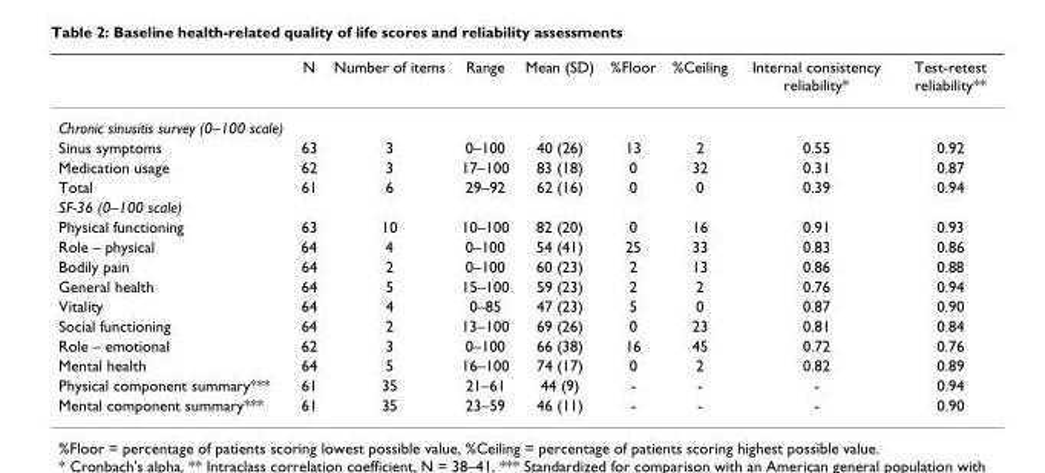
<table><thead><tr><td></td><td>N</td><td>Number of items</td><td>Range</td><td>Mean (SD)</td><td>%Floor</td><td>%Ceiling</td><td>Internal consistency reliability*</td><td>Test-retest reliability**</td></tr></thead><tbody><tr><td colspan="9">Chronic sinusitis survey (0–100 scale)</td></tr><tr><td>Sinus symptoms</td><td>63</td><td>3</td><td>0–100</td><td>40 (26)</td><td>13</td><td>2</td><td>0.55</td><td>0.92</td></tr><tr><td>Medication usage</td><td>62</td><td>3</td><td>17–100</td><td>83 (18)</td><td>0</td><td>32</td><td>0.31</td><td>0.87</td></tr><tr><td>Total</td><td>61</td><td>6</td><td>29–92</td><td>62 (16)</td><td>0</td><td>0</td><td>0.39</td><td>0.94</td></tr><tr><td colspan="9">SF-36 (0–100 scale)</td></tr><tr><td>Physical functioning</td><td>63</td><td>10</td><td>10–100</td><td>82 (20)</td><td>0</td><td>16</td><td>0.91</td><td>0.93</td></tr><tr><td>Role – physical</td><td>64</td><td>4</td><td>0–100</td><td>54 (41)</td><td>25</td><td>33</td><td>0.83</td><td>0.86</td></tr><tr><td>Bodily pain</td><td>64</td><td>2</td><td>0–100</td><td>60 (23)</td><td>2</td><td>13</td><td>0.86</td><td>0.88</td></tr><tr><td>General health</td><td>64</td><td>5</td><td>15–100</td><td>59 (23)</td><td>2</td><td>2</td><td>0.76</td><td>0.94</td></tr><tr><td>Vitality</td><td>64</td><td>4</td><td>0–85</td><td>47 (23)</td><td>5</td><td>0</td><td>0.87</td><td>0.90</td></tr><tr><td>Social functioning</td><td>64</td><td>2</td><td>13–100</td><td>69 (26)</td><td>0</td><td>23</td><td>0.81</td><td>0.84</td></tr><tr><td>Role – emotional</td><td>62</td><td>3</td><td>0–100</td><td>66 (38)</td><td>16</td><td>45</td><td>0.72</td><td>0.76</td></tr><tr><td>Mental health</td><td>64</td><td>5</td><td>16–100</td><td>74 (17)</td><td>0</td><td>2</td><td>0.82</td><td>0.89</td></tr><tr><td>Physical component summary***</td><td>61</td><td>35</td><td>21–61</td><td>44 (9)</td><td>-</td><td>-</td><td>-</td><td>0.94</td></tr><tr><td>Mental component summary***</td><td>61</td><td>35</td><td>23–59</td><td>46 (11)</td><td>-</td><td>-</td><td>-</td><td>0.90</td></tr></tbody></table>